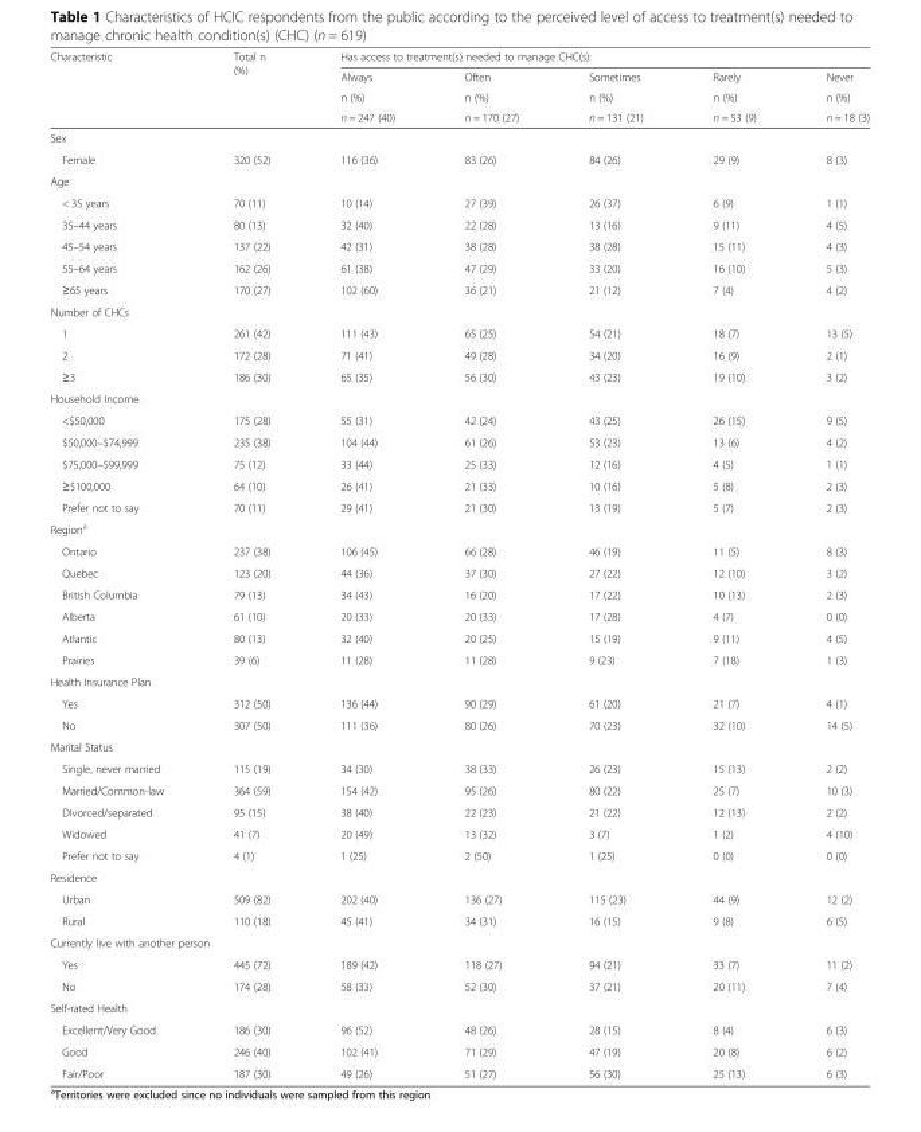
<table><thead><tr><td rowspan="4">Characteristic</td><td rowspan="4">Total n (%)</td><td colspan="5">Has access to treatment(s) needed to manage CHC(s):</td></tr><tr><td rowspan="3">Always n (%) n = 247 (40)</td><td rowspan="3">Often n (%) n = 170 (27)</td><td rowspan="3">Sometimes n (%) n = 131 (21)</td><td rowspan="3">Rarely n (%) n = 53 (9)</td><td rowspan="3">Never n (%) n = 18 (3)</td></tr><tr></tr><tr></tr></thead><tbody><tr><td colspan="7">Sex</td></tr><tr><td>Female</td><td>320 (52)</td><td>116 (36)</td><td>83 (26)</td><td>84 (26)</td><td>29 (9)</td><td>8 (3)</td></tr><tr><td colspan="7">Age</td></tr><tr><td>&lt; 35 years</td><td>70 (11)</td><td>10 (14)</td><td>27 (39)</td><td>26 (37)</td><td>6 (9)</td><td>1 (1)</td></tr><tr><td>35–44 years</td><td>80 (13)</td><td>32 (40)</td><td>22 (28)</td><td>13 (16)</td><td>9 (11)</td><td>4 (5)</td></tr><tr><td>45–54 years</td><td>137 (22)</td><td>42 (31)</td><td>38 (28)</td><td>38 (28)</td><td>15 (11)</td><td>4 (3)</td></tr><tr><td>55–64 years</td><td>162 (26)</td><td>61 (38)</td><td>47 (29)</td><td>33 (20)</td><td>16 (10)</td><td>5 (3)</td></tr><tr><td>≥65 years</td><td>170 (27)</td><td>102 (60)</td><td>36 (21)</td><td>21 (12)</td><td>7 (4)</td><td>4 (2)</td></tr><tr><td colspan="7">Number of CHCs</td></tr><tr><td>1</td><td>261 (42)</td><td>111 (43)</td><td>65 (25)</td><td>54 (21)</td><td>18 (7)</td><td>13 (5)</td></tr><tr><td>2</td><td>172 (28)</td><td>71 (41)</td><td>49 (28)</td><td>34 (20)</td><td>16 (9)</td><td>2 (1)</td></tr><tr><td>≥3</td><td>186 (30)</td><td>65 (35)</td><td>56 (30)</td><td>43 (23)</td><td>19 (10)</td><td>3 (2)</td></tr><tr><td colspan="7">Household Income</td></tr><tr><td>&lt;$50,000</td><td>175 (28)</td><td>55 (31)</td><td>42 (24)</td><td>43 (25)</td><td>26 (15)</td><td>9 (5)</td></tr><tr><td>$50,000–$74,999</td><td>235 (38)</td><td>104 (44)</td><td>61 (26)</td><td>53 (23)</td><td>13 (6)</td><td>4 (2)</td></tr><tr><td>$75,000–$99,999</td><td>75 (12)</td><td>33 (44)</td><td>25 (33)</td><td>12 (16)</td><td>4 (5)</td><td>1 (1)</td></tr><tr><td>≥$100,000</td><td>64 (10)</td><td>26 (41)</td><td>21 (33)</td><td>10 (16)</td><td>5 (8)</td><td>2 (3)</td></tr><tr><td>Prefer not to say</td><td>70 (11)</td><td>29 (41)</td><td>21 (30)</td><td>13 (19)</td><td>5 (7)</td><td>2 (3)</td></tr><tr><td colspan="7">Region<sup>a</sup></td></tr><tr><td>Ontario</td><td>237 (38)</td><td>106 (45)</td><td>66 (28)</td><td>46 (19)</td><td>11 (5)</td><td>8 (3)</td></tr><tr><td>Quebec</td><td>123 (20)</td><td>44 (36)</td><td>37 (30)</td><td>27 (22)</td><td>12 (10)</td><td>3 (2)</td></tr><tr><td>British Columbia</td><td>79 (13)</td><td>34 (43)</td><td>16 (20)</td><td>17 (22)</td><td>10 (13)</td><td>2 (3)</td></tr><tr><td>Alberta</td><td>61 (10)</td><td>20 (33)</td><td>20 (33)</td><td>17 (28)</td><td>4 (7)</td><td>0 (0)</td></tr><tr><td>Atlantic</td><td>80 (13)</td><td>32 (40)</td><td>20 (25)</td><td>15 (19)</td><td>9 (11)</td><td>4 (5)</td></tr><tr><td>Prairies</td><td>39 (6)</td><td>11 (28)</td><td>11 (28)</td><td>9 (23)</td><td>7 (18)</td><td>1 (3)</td></tr><tr><td colspan="7">Health Insurance Plan</td></tr><tr><td>Yes</td><td>312 (50)</td><td>136 (44)</td><td>90 (29)</td><td>61 (20)</td><td>21 (7)</td><td>4 (1)</td></tr><tr><td>No</td><td>307 (50)</td><td>111 (36)</td><td>80 (26)</td><td>70 (23)</td><td>32 (10)</td><td>14 (5)</td></tr><tr><td colspan="7">Marital Status</td></tr><tr><td>Single, never married</td><td>115 (19)</td><td>34 (30)</td><td>38 (33)</td><td>26 (23)</td><td>15 (13)</td><td>2 (2)</td></tr><tr><td>Married/Common-law</td><td>364 (59)</td><td>154 (42)</td><td>95 (26)</td><td>80 (22)</td><td>25 (7)</td><td>10 (3)</td></tr><tr><td>Divorced/separated</td><td>95 (15)</td><td>38 (40)</td><td>22 (23)</td><td>21 (22)</td><td>12 (13)</td><td>2 (2)</td></tr><tr><td>Widowed</td><td>41 (7)</td><td>20 (49)</td><td>13 (32)</td><td>3 (7)</td><td>1 (2)</td><td>4 (10)</td></tr><tr><td>Prefer not to say</td><td>4 (1)</td><td>1 (25)</td><td>2 (50)</td><td>1 (25)</td><td>0 (0)</td><td>0 (0)</td></tr><tr><td colspan="7">Residence</td></tr><tr><td>Urban</td><td>509 (82)</td><td>202 (40)</td><td>136 (27)</td><td>115 (23)</td><td>44 (9)</td><td>12 (2)</td></tr><tr><td>Rural</td><td>110 (18)</td><td>45 (41)</td><td>34 (31)</td><td>16 (15)</td><td>9 (8)</td><td>6 (5)</td></tr><tr><td colspan="7">Currently live with another person</td></tr><tr><td>Yes</td><td>445 (72)</td><td>189 (42)</td><td>118 (27)</td><td>94 (21)</td><td>33 (7)</td><td>11 (2)</td></tr><tr><td>No</td><td>174 (28)</td><td>58 (33)</td><td>52 (30)</td><td>37 (21)</td><td>20 (11)</td><td>7 (4)</td></tr><tr><td colspan="7">Self-rated Health</td></tr><tr><td>Excellent/Very Good</td><td>186 (30)</td><td>96 (52)</td><td>48 (26)</td><td>28 (15)</td><td>8 (4)</td><td>6 (3)</td></tr><tr><td>Good</td><td>246 (40)</td><td>102 (41)</td><td>71 (29)</td><td>47 (19)</td><td>20 (8)</td><td>6 (2)</td></tr><tr><td>Fair/Poor</td><td>187 (30)</td><td>49 (26)</td><td>51 (27)</td><td>56 (30)</td><td>25 (13)</td><td>6 (3)</td></tr></tbody></table>